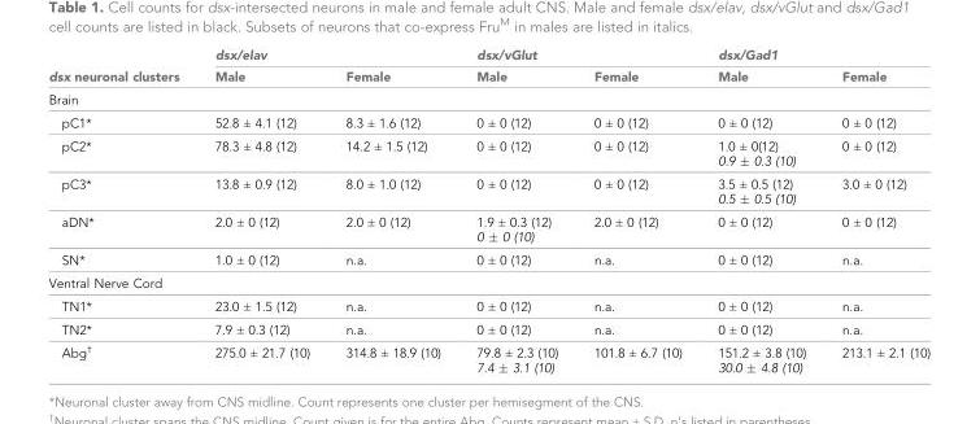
<table><thead><tr><td rowspan="2">dsx neuronal clusters</td><td colspan="2">dsx/elav</td><td colspan="2">dsx/vGlut</td><td colspan="2">dsx/Gad1</td></tr><tr><td>Male</td><td>Female</td><td>Male</td><td>Female</td><td>Male</td><td>Female</td></tr></thead><tbody><tr><td colspan="7">Brain</td></tr><tr><td>pC1*</td><td>52.8 ± 4.1 (12)</td><td>8.3 ± 1.6 (12)</td><td>0 ± 0 (12)</td><td>0 ± 0 (12)</td><td>0 ± 0 (12)</td><td>0 ± 0 (12)</td></tr><tr><td>pC2*</td><td>78.3 ± 4.8 (12)</td><td>14.2 ± 1.5 (12)</td><td>0 ± 0 (12)</td><td>0 ± 0 (12)</td><td>1.0 ± 0(12) 0.9 ± 0.3 (10)</td><td>0 ± 0 (12)</td></tr><tr><td>pC3*</td><td>13.8 ± 0.9 (12)</td><td>8.0 ± 1.0 (12)</td><td>0 ± 0 (12)</td><td>0 ± 0 (12)</td><td>3.5 ± 0.5 (12) 0.5 ± 0.5 (10)</td><td>3.0 ± 0 (12)</td></tr><tr><td>aDN*</td><td>2.0 ± 0 (12)</td><td>2.0 ± 0 (12)</td><td>1.9 ± 0.3 (12) 0 ± 0 (10)</td><td>2.0 ± 0 (12)</td><td>0 ± 0 (12)</td><td>0 ± 0 (12)</td></tr><tr><td>SN*</td><td>1.0 ± 0 (12)</td><td>n.a.</td><td>0 ± 0 (12)</td><td>n.a.</td><td>0 ± 0 (12)</td><td>n.a.</td></tr><tr><td colspan="7">Ventral Nerve Cord</td></tr><tr><td>TN1*</td><td>23.0 ± 1.5 (12)</td><td>n.a.</td><td>0 ± 0 (12)</td><td>n.a.</td><td>0 ± 0 (12)</td><td>n.a.</td></tr><tr><td>TN2*</td><td>7.9 ± 0.3 (12)</td><td>n.a.</td><td>0 ± 0 (12)</td><td>n.a.</td><td>0 ± 0 (12)</td><td>n.a.</td></tr><tr><td>Abg<sup>†</sup></td><td>275.0 ± 21.7 (10)</td><td>314.8 ± 18.9 (10)</td><td>79.8 ± 2.3 (10) 7.4 ± 3.1 (10)</td><td>101.8 ± 6.7 (10)</td><td>151.2 ± 3.8 (10) 30.0 ± 4.8 (10)</td><td>213.1 ± 2.1 (10)</td></tr></tbody></table>